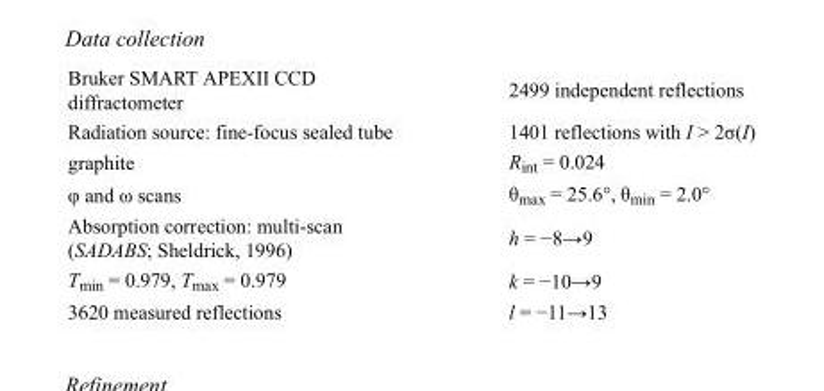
<table><tbody><tr><td>Bruker SMART APEXII CCD diffractometer</td><td>2499 independent reflections</td></tr><tr><td>Radiation source: fine-focus sealed tube</td><td>1401 reflections with I &gt; 2σ(I)</td></tr><tr><td>graphite</td><td>R<sub>int</sub> = 0.024</td></tr><tr><td>φ and ω scans</td><td>θ<sub>max</sub> = 25.6°, θ<sub>min</sub> = 2.0°</td></tr><tr><td>Absorption correction: multi-scan (SADABS; Sheldrick, 1996)</td><td>h = −8→9</td></tr><tr><td>T<sub>min</sub> = 0.979, T<sub>max</sub> = 0.979</td><td>k = −10→9</td></tr><tr><td>3620 measured reflections</td><td>l = −11→13</td></tr></tbody></table>